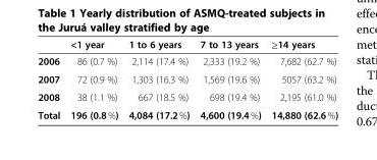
<table><thead><tr><td></td><td>&lt;1 year</td><td>1 to 6 years</td><td>7 to 13 years</td><td>≥14 years</td></tr></thead><tbody><tr><td>2006</td><td>86 (0.7 %)</td><td>2,114 (17.4 %)</td><td>2,333 (19.2 %)</td><td>7,682 (62.7 %)</td></tr><tr><td>2007</td><td>72 (0.9 %)</td><td>1,303 (16.3 %)</td><td>1,569 (19.6 %)</td><td>5057 (63.2 %)</td></tr><tr><td>2008</td><td>38 (1.1 %)</td><td>667 (18.5 %)</td><td>698 (19.4 %)</td><td>2,195 (61.0 %)</td></tr><tr><td>Total</td><td>196 (0.8 %)</td><td>4,084 (17.2 %)</td><td>4,600 (19.4 %)</td><td>14,880 (62.6 %)</td></tr></tbody></table>